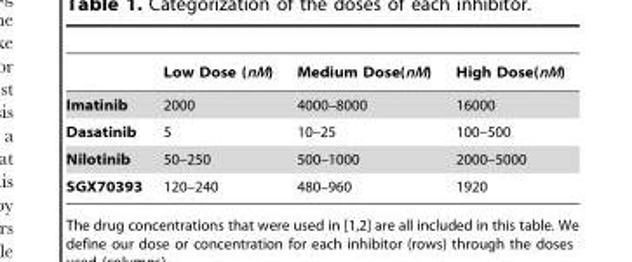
<table><thead><tr><td></td><td>Low Dose (nM)</td><td>Medium Dose(nM)</td><td>High Dose(nM)</td></tr></thead><tbody><tr><td>Imatinib</td><td>2000</td><td>4000–8000</td><td>16000</td></tr><tr><td>Dasatinib</td><td>5</td><td>10–25</td><td>100–500</td></tr><tr><td>Nilotinib</td><td>50–250</td><td>500–1000</td><td>2000–5000</td></tr><tr><td>SGX70393</td><td>120–240</td><td>480–960</td><td>1920</td></tr></tbody></table>